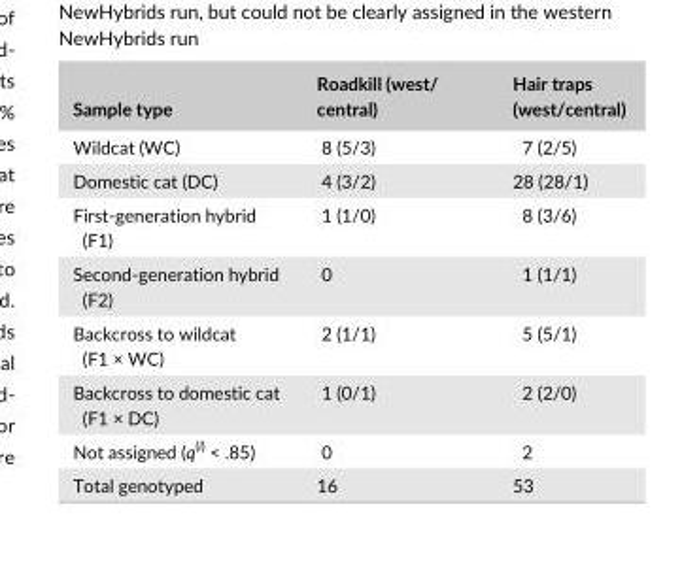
<table><thead><tr><td>Sample type</td><td>Roadkill (west/ central)</td><td>Hair traps (west/central)</td></tr></thead><tbody><tr><td>Wildcat (WC)</td><td>8 (5/3)</td><td>7 (2/5)</td></tr><tr><td>Domestic cat (DC)</td><td>4 (3/2)</td><td>28 (28/1)</td></tr><tr><td>First- generation hybrid (F1)</td><td>1 (1/0)</td><td>8 (3/6)</td></tr><tr><td>Second- generation hybrid (F2)</td><td>0</td><td>1 (1/1)</td></tr><tr><td>Backcross to wildcat (F1 × WC)</td><td>2 (1/1)</td><td>5 (5/1)</td></tr><tr><td>Backcross to domestic cat (F1 × DC)</td><td>1 (0/1)</td><td>2 (2/0)</td></tr><tr><td>Not assigned (q<sup>(i)</sup> &lt; .85)</td><td>0</td><td>2</td></tr><tr><td>Total genotyped</td><td>16</td><td>53</td></tr></tbody></table>